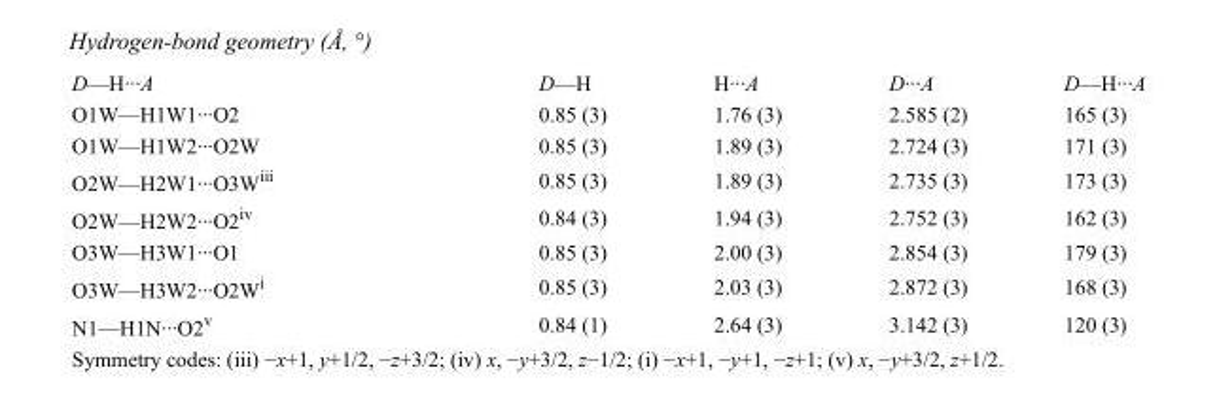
<table><tbody><tr><td>D—H···A</td><td>D—H</td><td>H···A</td><td>D···A</td><td>D—H···A</td></tr><tr><td>O1W—H1W1···O2</td><td>0.85 (3)</td><td>1.76 (3)</td><td>2.585 (2)</td><td>165 (3)</td></tr><tr><td>O1W—H1W2···O2W</td><td>0.85 (3)</td><td>1.89 (3)</td><td>2.724 (3)</td><td>171 (3)</td></tr><tr><td>O2W—H2W1···O3W<sup>iii</sup></td><td>0.85 (3)</td><td>1.89 (3)</td><td>2.735 (3)</td><td>173 (3)</td></tr><tr><td>O2W—H2W2···O2<sup>iv</sup></td><td>0.84 (3)</td><td>1.94 (3)</td><td>2.752 (3)</td><td>162 (3)</td></tr><tr><td>O3W—H3W1···O1</td><td>0.85 (3)</td><td>2.00 (3)</td><td>2.854 (3)</td><td>179 (3)</td></tr><tr><td>O3W—H3W2···O2W<sup>i</sup></td><td>0.85 (3)</td><td>2.03 (3)</td><td>2.872 (3)</td><td>168 (3)</td></tr><tr><td>N1—H1N···O2<sup>v</sup></td><td>0.84 (1)</td><td>2.64 (3)</td><td>3.142 (3)</td><td>120 (3)</td></tr></tbody></table>